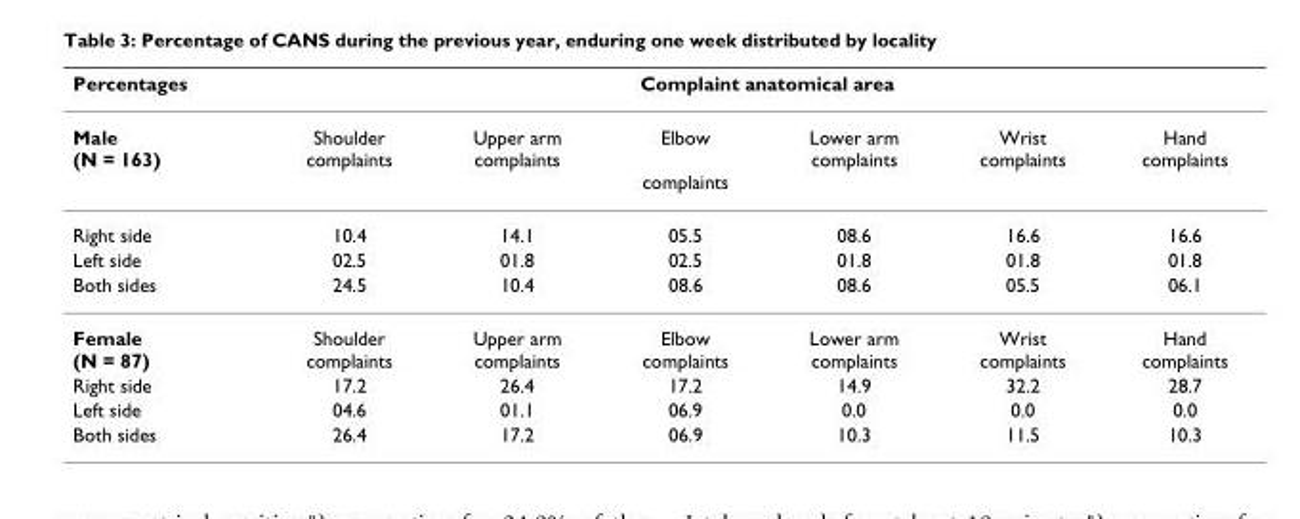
<table><thead><tr><td rowspan="2">Percentages Male (N = 163)</td><td colspan="6">Complaint anatomical area</td></tr><tr><td>Shoulder complaints</td><td>Upper arm complaints</td><td>Elbow complaints</td><td>Lower arm complaints</td><td>Wrist complaints</td><td>Hand complaints</td></tr></thead><tbody><tr><td>Right side</td><td>10.4</td><td>14.1</td><td>05.5</td><td>08.6</td><td>16.6</td><td>16.6</td></tr><tr><td>Left side</td><td>02.5</td><td>01.8</td><td>02.5</td><td>01.8</td><td>01.8</td><td>01.8</td></tr><tr><td>Both sides</td><td>24.5</td><td>10.4</td><td>08.6</td><td>08.6</td><td>05.5</td><td>06.1</td></tr><tr><td>Female (N = 87)</td><td>Shoulder complaints</td><td>Upper arm complaints</td><td>Elbow complaints</td><td>Lower arm complaints</td><td>Wrist complaints</td><td>Hand complaints</td></tr><tr><td>Right side</td><td>17.2</td><td>26.4</td><td>17.2</td><td>14.9</td><td>32.2</td><td>28.7</td></tr><tr><td>Left side</td><td>04.6</td><td>01.1</td><td>06.9</td><td>0.0</td><td>0.0</td><td>0.0</td></tr><tr><td>Both sides</td><td>26.4</td><td>17.2</td><td>06.9</td><td>10.3</td><td>11.5</td><td>10.3</td></tr></tbody></table>